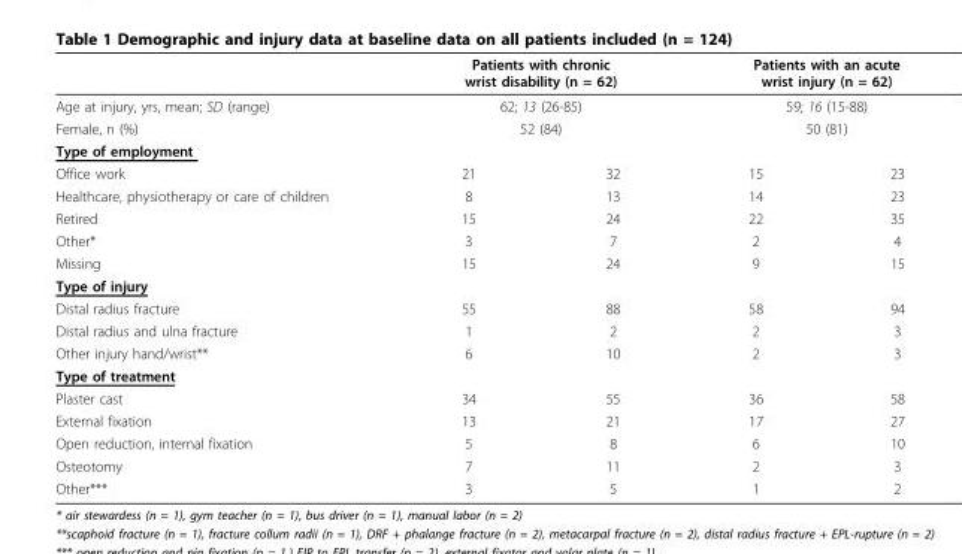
<table><thead><tr><td rowspan="4">Age at injury, yrs, mean; SD (range) Female, n (%) Type of employment</td><td rowspan="3" colspan="2">Patients with chronic wrist disability (n = 62) 62; 13 (26-85) 52 (84)</td><td rowspan="3" colspan="2">Patients with an acute wrist injury (n = 62) 59; 16 (15-88) 50 (81)</td></tr><tr></tr><tr></tr><tr><td></td><td></td><td></td><td></td></tr></thead><tbody><tr><td>Office work</td><td>21</td><td>32</td><td>15</td><td>23</td></tr><tr><td>Healthcare, physiotherapy or care of children</td><td>8</td><td>13</td><td>14</td><td>23</td></tr><tr><td>Retired</td><td>15</td><td>24</td><td>22</td><td>35</td></tr><tr><td>Other*</td><td>3</td><td>7</td><td>2</td><td>4</td></tr><tr><td>Missing</td><td>15</td><td>24</td><td>9</td><td>15</td></tr><tr><td colspan="5">Type of injury</td></tr><tr><td>Distal radius fracture</td><td>55</td><td>88</td><td>58</td><td>94</td></tr><tr><td>Distal radius and ulna fracture</td><td>1</td><td>2</td><td>2</td><td>3</td></tr><tr><td>Other injury hand/wrist**</td><td>6</td><td>10</td><td>2</td><td>3</td></tr><tr><td colspan="5">Type of treatment</td></tr><tr><td>Plaster cast</td><td>34</td><td>55</td><td>36</td><td>58</td></tr><tr><td>External fixation</td><td>13</td><td>21</td><td>17</td><td>27</td></tr><tr><td>Open reduction, internal fixation</td><td>5</td><td>8</td><td>6</td><td>10</td></tr><tr><td>Osteotomy</td><td>7</td><td>11</td><td>2</td><td>3</td></tr><tr><td>Other***</td><td>3</td><td>5</td><td>1</td><td>2</td></tr></tbody></table>